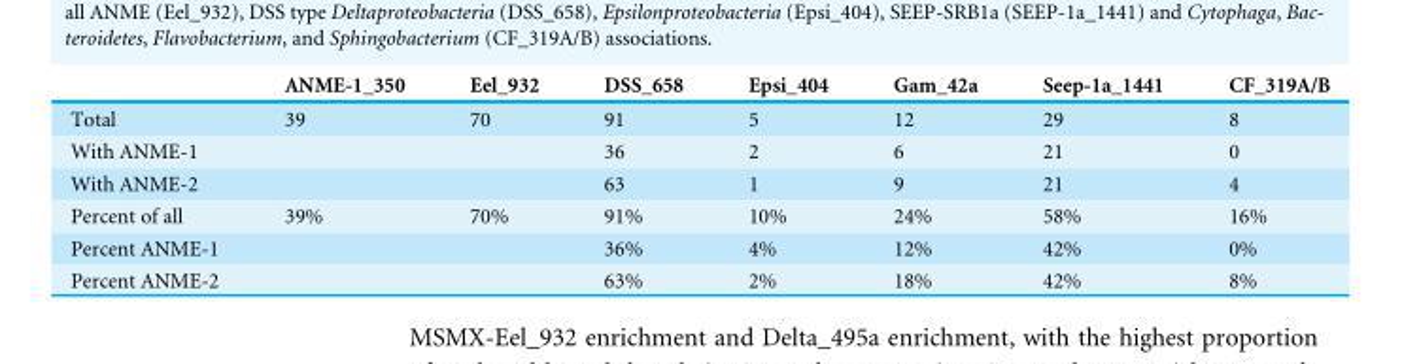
<table><thead><tr><td></td><td>ANME-1_350</td><td>Eel_932</td><td>DSS_658</td><td>Epsi_404</td><td>Gam_42a</td><td>Seep-1a_1441</td><td>CF_319A/B</td></tr></thead><tbody><tr><td>Total</td><td>39</td><td>70</td><td>91</td><td>5</td><td>12</td><td>29</td><td>8</td></tr><tr><td>With ANME-1</td><td></td><td></td><td>36</td><td>2</td><td>6</td><td>21</td><td>0</td></tr><tr><td>With ANME-2</td><td></td><td></td><td>63</td><td>1</td><td>9</td><td>21</td><td>4</td></tr><tr><td>Percent of all</td><td>39%</td><td>70%</td><td>91%</td><td>10%</td><td>24%</td><td>58%</td><td>16%</td></tr><tr><td>Percent ANME-1</td><td></td><td></td><td>36%</td><td>4%</td><td>12%</td><td>42%</td><td>0%</td></tr><tr><td>Percent ANME-2</td><td></td><td></td><td>63%</td><td>2%</td><td>18%</td><td>42%</td><td>8%</td></tr></tbody></table>